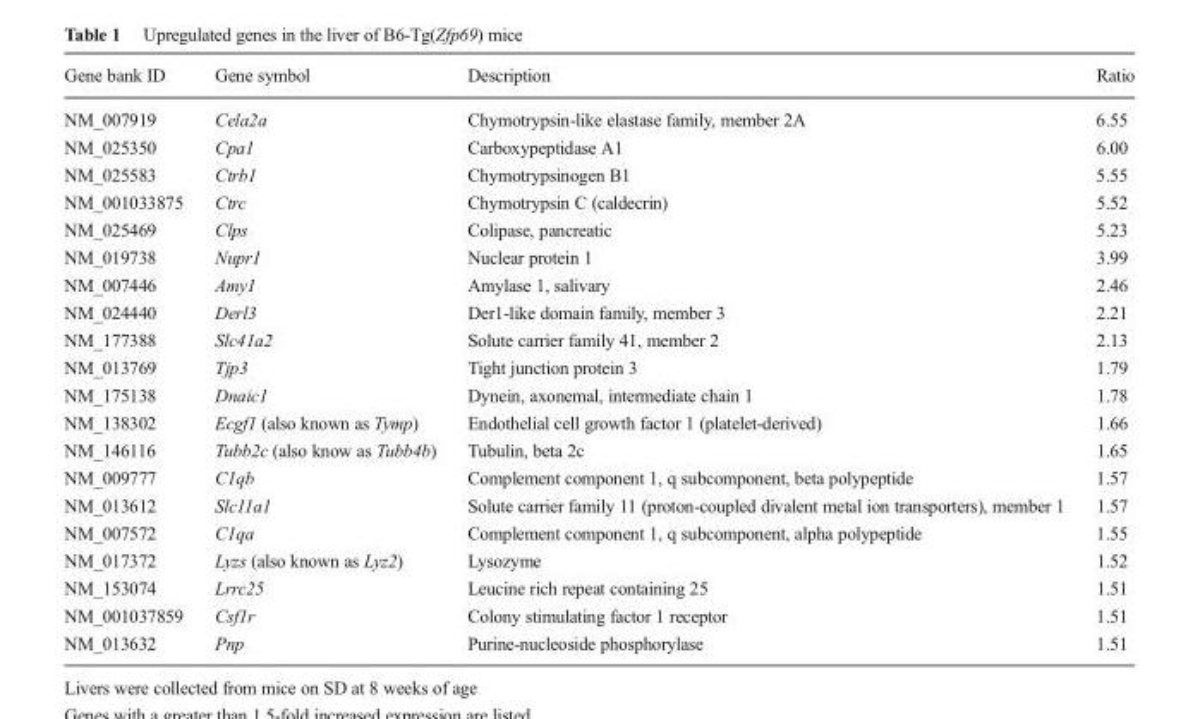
<table><thead><tr><td>Gene bank ID</td><td>Gene symbol</td><td>Description</td><td>Ratio</td></tr></thead><tbody><tr><td>NM_007919</td><td>Cela2a</td><td>Chymotrypsin-like elastase family, member 2A</td><td>6.55</td></tr><tr><td>NM_025350</td><td>Cpa1</td><td>Carboxypeptidase A1</td><td>6.00</td></tr><tr><td>NM_025583</td><td>Ctrb1</td><td>Chymotrypsinogen B1</td><td>5.55</td></tr><tr><td>NM_001033875</td><td>Ctrc</td><td>Chymotrypsin C (caldecrin)</td><td>5.52</td></tr><tr><td>NM_025469</td><td>Clps</td><td>Colipase, pancreatic</td><td>5.23</td></tr><tr><td>NM_019738</td><td>Nupr1</td><td>Nuclear protein 1</td><td>3.99</td></tr><tr><td>NM_007446</td><td>Amy1</td><td>Amylase 1, salivary</td><td>2.46</td></tr><tr><td>NM_024440</td><td>Derl3</td><td>Der1-like domain family, member 3</td><td>2.21</td></tr><tr><td>NM_177388</td><td>Slc41a2</td><td>Solute carrier family 41, member 2</td><td>2.13</td></tr><tr><td>NM_013769</td><td>Tjp3</td><td>Tight junction protein 3</td><td>1.79</td></tr><tr><td>NM_175138</td><td>Dnaic1</td><td>Dynein, axonemal, intermediate chain 1</td><td>1.78</td></tr><tr><td>NM_138302</td><td>Ecgf1 (also known as Tymp)</td><td>Endothelial cell growth factor 1 (platelet-derived)</td><td>1.66</td></tr><tr><td>NM_146116</td><td>Tubb2c (also know as Tubb4b)</td><td>Tubulin, beta 2c</td><td>1.65</td></tr><tr><td>NM_009777</td><td>C1qb</td><td>Complement component 1, q subcomponent, beta polypeptide</td><td>1.57</td></tr><tr><td>NM_013612</td><td>Slc11a1</td><td>Solute carrier family 11 (proton-coupled divalent metal ion transporters), member 1</td><td>1.57</td></tr><tr><td>NM_007572</td><td>C1qa</td><td>Complement component 1, q subcomponent, alpha polypeptide</td><td>1.55</td></tr><tr><td>NM_017372</td><td>Lyzs (also known as Lyz2)</td><td>Lysozyme</td><td>1.52</td></tr><tr><td>NM_153074</td><td>Lrrc25</td><td>Leucine rich repeat containing 25</td><td>1.51</td></tr><tr><td>NM_001037859</td><td>Csf1r</td><td>Colony stimulating factor 1 receptor</td><td>1.51</td></tr><tr><td>NM_013632</td><td>Pnp</td><td>Purine-nucleoside phosphorylase</td><td>1.51</td></tr></tbody></table>